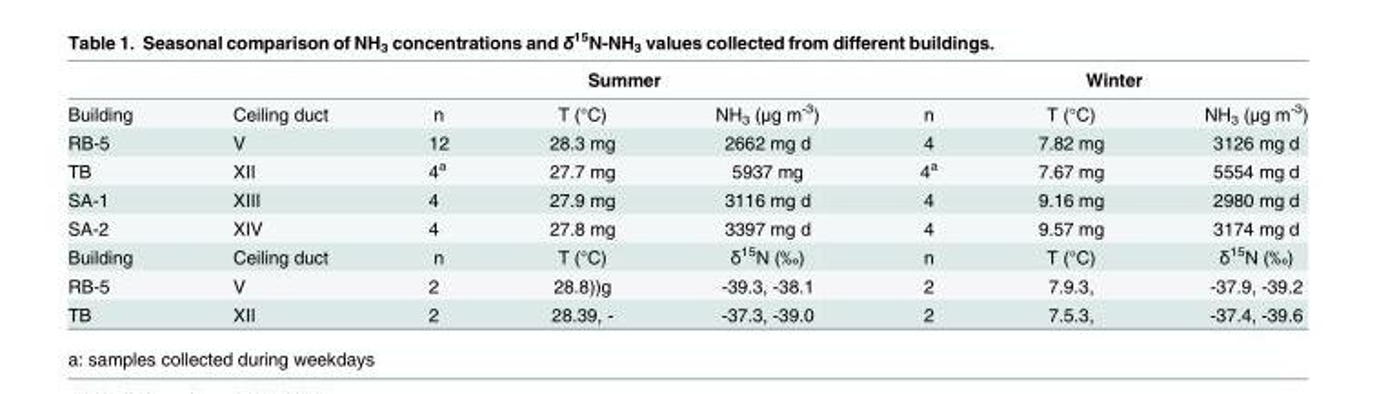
<table><thead><tr><td rowspan="2">Building</td><td rowspan="2">Ceiling duct</td><td colspan="3">Summer</td><td colspan="3">Winter</td></tr><tr><td>n</td><td>T (°C)</td><td>NH<sub>3</sub> (μg m<sup>-3</sup>)</td><td>n</td><td>T (°C)</td><td>NH<sub>3</sub> (μg m<sup>-3</sup>)</td></tr></thead><tbody><tr><td>RB-5</td><td>V</td><td>12</td><td>28.3 mg</td><td>2662 mg d</td><td>4</td><td>7.82 mg</td><td>3126 mg d</td></tr><tr><td>TB</td><td>XII</td><td>4<sup>a</sup></td><td>27.7 mg</td><td>5937 mg</td><td>4<sup>a</sup></td><td>7.67 mg</td><td>5554 mg d</td></tr><tr><td>SA-1</td><td>XIII</td><td>4</td><td>27.9 mg</td><td>3116 mg d</td><td>4</td><td>9.16 mg</td><td>2980 mg d</td></tr><tr><td>SA-2</td><td>XIV</td><td>4</td><td>27.8 mg</td><td>3397 mg d</td><td>4</td><td>9.57 mg</td><td>3174 mg d</td></tr><tr><td>Building</td><td>Ceiling duct</td><td>n</td><td>T (°C)</td><td>δ<sup>15</sup>N (‰)</td><td>n</td><td>T (°C)</td><td>δ<sup>15</sup>N (‰)</td></tr><tr><td>RB-5</td><td>V</td><td>2</td><td>28.8))g</td><td>-39.3, -38.1</td><td>2</td><td>7.9.3,</td><td>-37.9, -39.2</td></tr><tr><td>TB</td><td>XII</td><td>2</td><td>28.39, -</td><td>-37.3, -39.0</td><td>2</td><td>7.5.3,</td><td>-37.4, -39.6</td></tr></tbody></table>